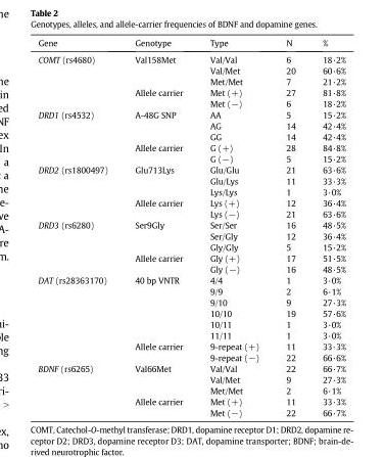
<table><thead><tr><td>Gene</td><td>Genotype</td><td>Type</td><td>N</td><td>%</td></tr></thead><tbody><tr><td rowspan="5">COMT (rs4680)</td><td>Val158Met</td><td>Val/Val</td><td>6</td><td>18·2%</td></tr><tr><td></td><td>Val/Met</td><td>20</td><td>60·6%</td></tr><tr><td></td><td>Met/Met</td><td>7</td><td>21·2%</td></tr><tr><td>Allele carrier</td><td>Met (+)</td><td>27</td><td>81·8%</td></tr><tr><td></td><td>Met (−)</td><td>6</td><td>18·2%</td></tr><tr><td rowspan="5">DRD1 (rs4532)</td><td>A-48G SNP</td><td>AA</td><td>5</td><td>15·2%</td></tr><tr><td></td><td>AG</td><td>14</td><td>42·4%</td></tr><tr><td></td><td>GG</td><td>14</td><td>42·4%</td></tr><tr><td>Allele carrier</td><td>G (+)</td><td>28</td><td>84·8%</td></tr><tr><td></td><td>G (−)</td><td>5</td><td>15·2%</td></tr><tr><td rowspan="5">DRD2 (rs1800497)</td><td>Glu713Lys</td><td>Glu/Glu</td><td>21</td><td>63·6%</td></tr><tr><td></td><td>Glu/Lys</td><td>11</td><td>33·3%</td></tr><tr><td></td><td>Lys/Lys</td><td>1</td><td>3·0%</td></tr><tr><td>Allele carrier</td><td>Lys (+)</td><td>12</td><td>36·4%</td></tr><tr><td></td><td>Lys (−)</td><td>21</td><td>63·6%</td></tr><tr><td rowspan="5">DRD3 (rs6280)</td><td>Ser9Gly</td><td>Ser/Ser</td><td>16</td><td>48·5%</td></tr><tr><td></td><td>Ser/Gly</td><td>12</td><td>36·4%</td></tr><tr><td></td><td>Gly/Gly</td><td>5</td><td>15·2%</td></tr><tr><td>Allele carrier</td><td>Gly (+)</td><td>17</td><td>51·5%</td></tr><tr><td></td><td>Gly (−)</td><td>16</td><td>48·5%</td></tr><tr><td rowspan="8">DAT (rs28363170)</td><td>40 bp VNTR</td><td>4/4</td><td>1</td><td>3·0%</td></tr><tr><td></td><td>9/9</td><td>2</td><td>6·1%</td></tr><tr><td></td><td>9/10</td><td>9</td><td>27·3%</td></tr><tr><td></td><td>10/10</td><td>19</td><td>57·6%</td></tr><tr><td></td><td>10/11</td><td>1</td><td>3·0%</td></tr><tr><td></td><td>11/11</td><td>1</td><td>3·0%</td></tr><tr><td>Allele carrier</td><td>9-repeat (+)</td><td>11</td><td>33·3%</td></tr><tr><td></td><td>9-repeat (−)</td><td>22</td><td>66·6%</td></tr><tr><td rowspan="5">BDNF (rs6265)</td><td>Val66Met</td><td>Val/Val</td><td>22</td><td>66·7%</td></tr><tr><td></td><td>Val/Met</td><td>9</td><td>27·3%</td></tr><tr><td></td><td>Met/Met</td><td>2</td><td>6·1%</td></tr><tr><td>Allele carrier</td><td>Met (+)</td><td>11</td><td>33·3%</td></tr><tr><td></td><td>Met (−)</td><td>22</td><td>66·7%</td></tr></tbody></table>